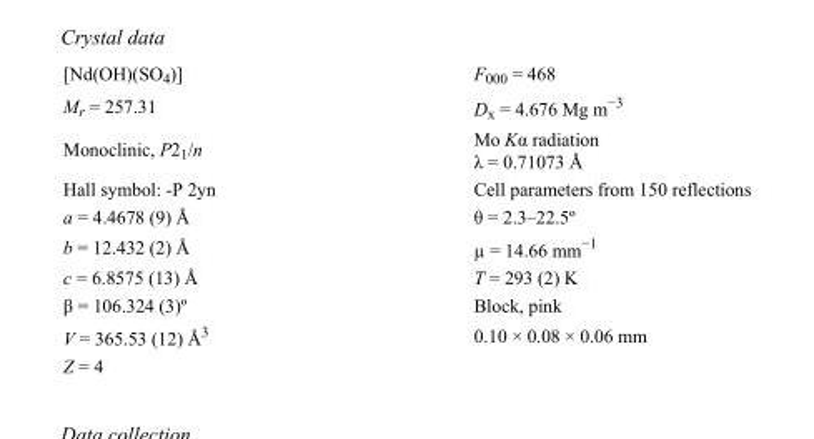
<table><tbody><tr><td>[Nd(OH)(SO<sub>4</sub>)]</td><td>F<sub>000</sub> = 468</td></tr><tr><td>M<sub>r</sub> = 257.31</td><td>D<sub>x</sub> = 4.676 Mg m<sup>−3</sup></td></tr><tr><td>Monoclinic, P2<sub>1</sub>/n</td><td>Mo Kα radiation λ = 0.71073 Å</td></tr><tr><td>Hall symbol: -P 2yn</td><td>Cell parameters from 150 reflections</td></tr><tr><td>a = 4.4678 (9) Å</td><td>θ = 2.3–22.5º</td></tr><tr><td>b = 12.432 (2) Å</td><td>µ = 14.66 mm<sup>−1</sup></td></tr><tr><td>c = 6.8575 (13) Å</td><td>T = 293 (2) K</td></tr><tr><td>β = 106.324 (3)º</td><td>Block, pink</td></tr><tr><td>V = 365.53 (12) Å<sup>3</sup></td><td>0.10 × 0.08 × 0.06 mm</td></tr><tr><td>Z = 4</td><td></td></tr></tbody></table>